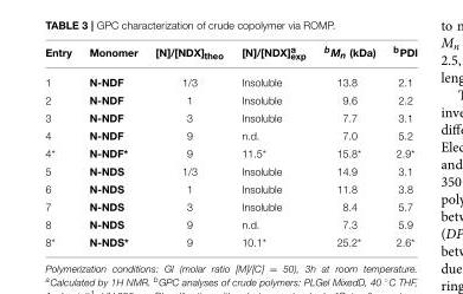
<table><thead><tr><td>Entry</td><td>Monomer</td><td>[N]/[NDX]<sub>theo</sub></td><td>[N]/[NDX]<sup>a</sup><sub>exp</sub></td><td>bMn (kDa)</td><td><sup>b</sup>PDI</td></tr></thead><tbody><tr><td>1</td><td>N-NDF</td><td>1/3</td><td>Insoluble</td><td>13.8</td><td>2.1</td></tr><tr><td>2</td><td>N-NDF</td><td>1</td><td>Insoluble</td><td>9.6</td><td>2.2</td></tr><tr><td>3</td><td>N-NDF</td><td>3</td><td>Insoluble</td><td>7.7</td><td>3.1</td></tr><tr><td>4</td><td>N-NDF</td><td>9</td><td>n.d.</td><td>7.0</td><td>5.2</td></tr><tr><td>4*</td><td>N-NDF*</td><td>9</td><td>11.5*</td><td>15.8*</td><td>2.9*</td></tr><tr><td>5</td><td>N-NDS</td><td>1/3</td><td>Insoluble</td><td>14.9</td><td>3.1</td></tr><tr><td>6</td><td>N-NDS</td><td>1</td><td>Insoluble</td><td>11.8</td><td>3.8</td></tr><tr><td>7</td><td>N-NDS</td><td>3</td><td>Insoluble</td><td>8.4</td><td>5.7</td></tr><tr><td>8</td><td>N-NDS</td><td>9</td><td>n.d.</td><td>7.3</td><td>5.9</td></tr><tr><td>8*</td><td>N-NDS*</td><td>9</td><td>10.1*</td><td>25.2*</td><td>2.6*</td></tr></tbody></table>